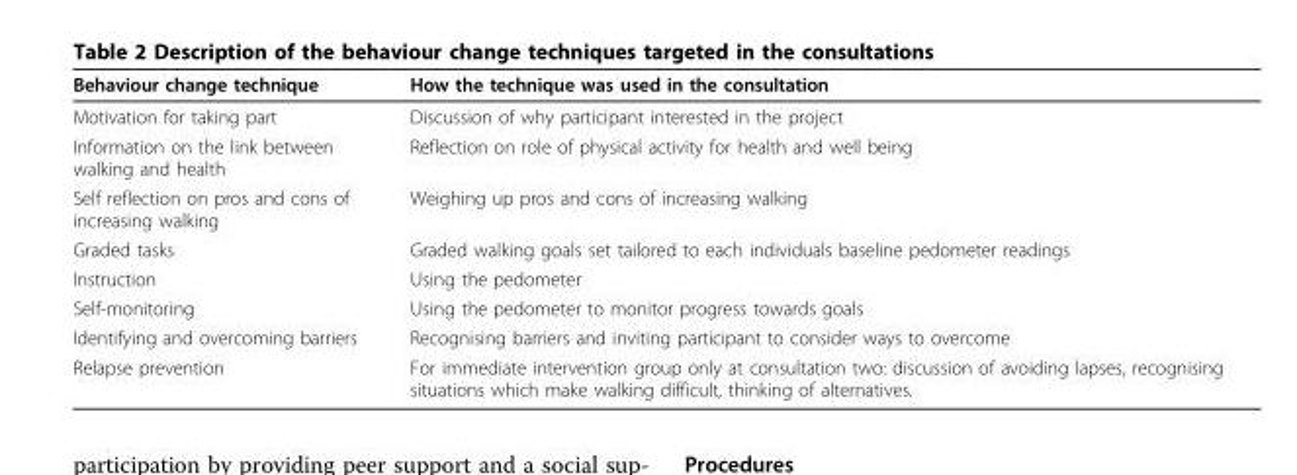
<table><thead><tr><td>Behaviour change technique</td><td>How the technique was used in the consultation</td></tr></thead><tbody><tr><td>Motivation for taking part</td><td>Discussion of why participant interested in the project</td></tr><tr><td>Information on the link between walking and health</td><td>Reflection on role of physical activity for health and well being</td></tr><tr><td>Self reflection on pros and cons of increasing walking</td><td>Weighing up pros and cons of increasing walking</td></tr><tr><td>Graded tasks</td><td>Graded walking goals set tailored to each individuals baseline pedometer readings</td></tr><tr><td>Instruction</td><td>Using the pedometer</td></tr><tr><td>Self-monitoring</td><td>Using the pedometer to monitor progress towards goals</td></tr><tr><td>Identifying and overcoming barriers</td><td>Recognising barriers and inviting participant to consider ways to overcome</td></tr><tr><td>Relapse prevention</td><td>For immediate intervention group only at consultation two: discussion of avoiding lapses, recognising situations which make walking difficult, thinking of alternatives.</td></tr></tbody></table>